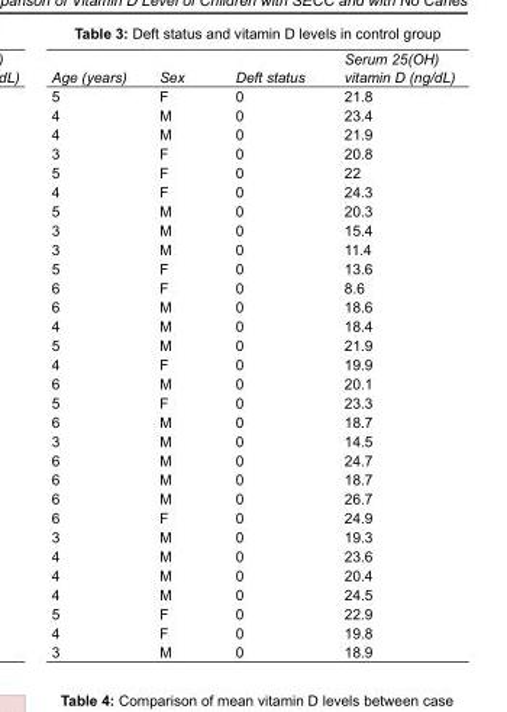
<table><tbody><tr><td>Age (years)</td><td>Sex</td><td>Deft status</td><td>Serum 25(OH) vitamin D (ng/dL)</td></tr><tr><td>5</td><td>F</td><td>0</td><td>21.8</td></tr><tr><td>4</td><td>M</td><td>0</td><td>23.4</td></tr><tr><td>4</td><td>M</td><td>0</td><td>21.9</td></tr><tr><td>3</td><td>F</td><td>0</td><td>20.8</td></tr><tr><td>5</td><td>F</td><td>0</td><td>22</td></tr><tr><td>4</td><td>F</td><td>0</td><td>24.3</td></tr><tr><td>5</td><td>M</td><td>0</td><td>20.3</td></tr><tr><td>3</td><td>M</td><td>0</td><td>15.4</td></tr><tr><td>3</td><td>M</td><td>0</td><td>11.4</td></tr><tr><td>5</td><td>F</td><td>0</td><td>13.6</td></tr><tr><td>6</td><td>F</td><td>0</td><td>8.6</td></tr><tr><td>6</td><td>M</td><td>0</td><td>18.6</td></tr><tr><td>4</td><td>M</td><td>0</td><td>18.4</td></tr><tr><td>5</td><td>M</td><td>0</td><td>21.9</td></tr><tr><td>4</td><td>F</td><td>0</td><td>19.9</td></tr><tr><td>6</td><td>M</td><td>0</td><td>20.1</td></tr><tr><td>5</td><td>F</td><td>0</td><td>23.3</td></tr><tr><td>6</td><td>M</td><td>0</td><td>18.7</td></tr><tr><td>3</td><td>M</td><td>0</td><td>14.5</td></tr><tr><td>6</td><td>M</td><td>0</td><td>24.7</td></tr><tr><td>6</td><td>M</td><td>0</td><td>18.7</td></tr><tr><td>6</td><td>M</td><td>0</td><td>26.7</td></tr><tr><td>6</td><td>F</td><td>0</td><td>24.9</td></tr><tr><td>3</td><td>M</td><td>0</td><td>19.3</td></tr><tr><td>4</td><td>M</td><td>0</td><td>23.6</td></tr><tr><td>4</td><td>M</td><td>0</td><td>20.4</td></tr><tr><td>4</td><td>M</td><td>0</td><td>24.5</td></tr><tr><td>5</td><td>F</td><td>0</td><td>22.9</td></tr><tr><td>4</td><td>F</td><td>0</td><td>19.8</td></tr><tr><td>3</td><td>M</td><td>0</td><td>18.9</td></tr></tbody></table>